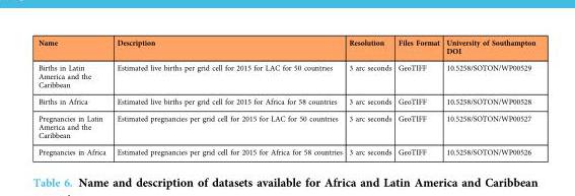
<table><thead><tr><td>Name</td><td>Description</td><td>Resolution</td><td>Files Format</td><td>University of Southampton DOI</td></tr></thead><tbody><tr><td>Births in Latin America and the Caribbean</td><td>Estimated live births per grid cell for 2015 for LAC for 50 countries</td><td>3 arc seconds</td><td>GeoTIFF</td><td>10.5258/SOTON/WP00529</td></tr><tr><td>Births in Africa</td><td>Estimated live births per grid cell for 2015 for Africa for 58 countries</td><td>3 arc seconds</td><td>GeoTIFF</td><td>10.5258/SOTON/WP00528</td></tr><tr><td>Pregnancies in Latin America and the Caribbean</td><td>Estimated pregnancies per grid cell for 2015 for LAC for 50 countries</td><td>3 arc seconds</td><td>GeoTIFF</td><td>10.5258/SOTON/WP00527</td></tr><tr><td>Pregnancies in Africa</td><td>Estimated pregnancies per grid cell for 2015 for Africa for 58 countries</td><td>3 arc seconds</td><td>GeoTIFF</td><td>10.5258/SOTON/WP00526</td></tr></tbody></table>